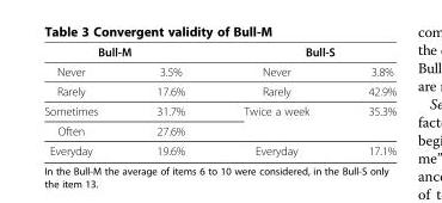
<table><thead><tr><td colspan="2">Bull-M</td><td colspan="2">Bull-S</td></tr><tr><td>Never</td><td>3.5%</td><td>Never</td><td>3.8%</td></tr></thead><tbody><tr><td>Rarely</td><td>17.6%</td><td>Rarely</td><td>42.9%</td></tr><tr><td>Sometimes</td><td>31.7%</td><td rowspan="2">Twice a week</td><td rowspan="2">35.3%</td></tr><tr><td>Often</td><td>27.6%</td></tr><tr><td>Everyday</td><td>19.6%</td><td>Everyday</td><td>17.1%</td></tr></tbody></table>